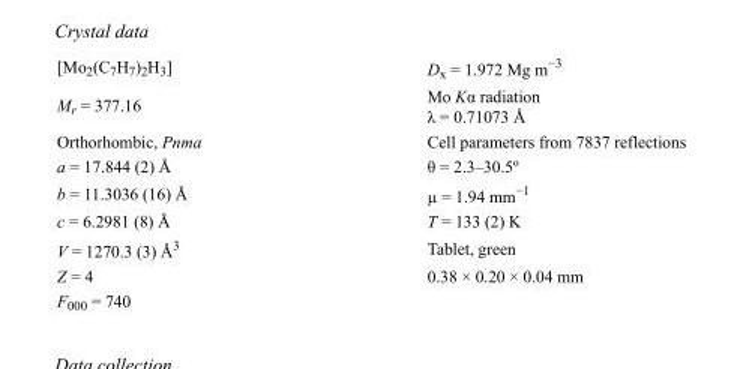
<table><tbody><tr><td>[Mo<sub>2</sub>(C<sub>7</sub>H<sub>7</sub>)<sub>2</sub>H<sub>3</sub>]</td><td>D<sub>x</sub> = 1.972 Mg m<sup>−3</sup></td></tr><tr><td>M<sub>r</sub> = 377.16</td><td>Mo Kα radiation λ = 0.71073 Å</td></tr><tr><td>Orthorhombic, Pnma</td><td>Cell parameters from 7837 reflections</td></tr><tr><td>a = 17.844 (2) Å</td><td>θ = 2.3–30.5º</td></tr><tr><td>b = 11.3036 (16) Å</td><td>µ = 1.94 mm<sup>−1</sup></td></tr><tr><td>c = 6.2981 (8) Å</td><td>T = 133 (2) K</td></tr><tr><td>V = 1270.3 (3) Å<sup>3</sup></td><td>Tablet, green</td></tr><tr><td>Z = 4</td><td>0.38 × 0.20 × 0.04 mm</td></tr><tr><td>F000 = 740</td><td></td></tr></tbody></table>